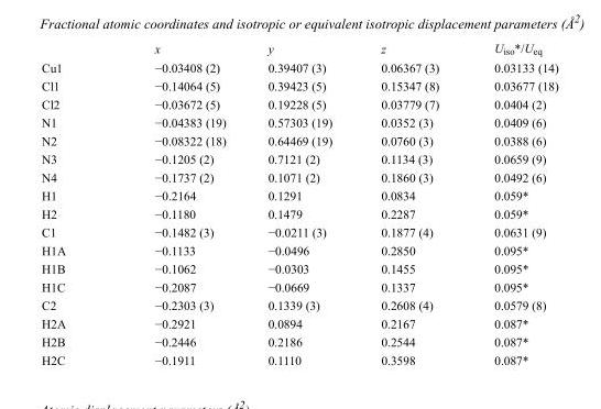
<table><thead><tr><td></td><td>x</td><td>y</td><td>z</td><td>U<sub>iso</sub>*/U<sub>eq</sub></td></tr></thead><tbody><tr><td>Cu1</td><td>−0.03408 (2)</td><td>0.39407 (3)</td><td>0.06367 (3)</td><td>0.03133 (14)</td></tr><tr><td>Cl1</td><td>−0.14064 (5)</td><td>0.39423 (5)</td><td>0.15347 (8)</td><td>0.03677 (18)</td></tr><tr><td>Cl2</td><td>−0.03672 (5)</td><td>0.19228 (5)</td><td>0.03779 (7)</td><td>0.0404 (2)</td></tr><tr><td>N1</td><td>−0.04383 (19)</td><td>0.57303 (19)</td><td>0.0352 (3)</td><td>0.0409 (6)</td></tr><tr><td>N2</td><td>−0.08322 (18)</td><td>0.64469 (19)</td><td>0.0760 (3)</td><td>0.0388 (6)</td></tr><tr><td>N3</td><td>−0.1205 (2)</td><td>0.7121 (2)</td><td>0.1134 (3)</td><td>0.0659 (9)</td></tr><tr><td>N4</td><td>−0.1737 (2)</td><td>0.1071 (2)</td><td>0.1860 (3)</td><td>0.0492 (6)</td></tr><tr><td>H1</td><td>−0.2164</td><td>0.1291</td><td>0.0834</td><td>0.059*</td></tr><tr><td>H2</td><td>−0.1180</td><td>0.1479</td><td>0.2287</td><td>0.059*</td></tr><tr><td>C1</td><td>−0.1482 (3)</td><td>−0.0211 (3)</td><td>0.1877 (4)</td><td>0.0631 (9)</td></tr><tr><td>H1A</td><td>−0.1133</td><td>−0.0496</td><td>0.2850</td><td>0.095*</td></tr><tr><td>H1B</td><td>−0.1062</td><td>−0.0303</td><td>0.1455</td><td>0.095*</td></tr><tr><td>H1C</td><td>−0.2087</td><td>−0.0669</td><td>0.1337</td><td>0.095*</td></tr><tr><td>C2</td><td>−0.2303 (3)</td><td>0.1339 (3)</td><td>0.2608 (4)</td><td>0.0579 (8)</td></tr><tr><td>H2A</td><td>−0.2921</td><td>0.0894</td><td>0.2167</td><td>0.087*</td></tr><tr><td>H2B</td><td>−0.2446</td><td>0.2186</td><td>0.2544</td><td>0.087*</td></tr><tr><td>H2C</td><td>−0.1911</td><td>0.1110</td><td>0.3598</td><td>0.087*</td></tr></tbody></table>